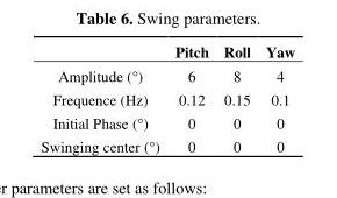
<table><thead><tr><td></td><td>Pitch</td><td>Roll</td><td>Yaw</td></tr></thead><tbody><tr><td>Amplitude (°)</td><td>6</td><td>8</td><td>4</td></tr><tr><td>Frequence (Hz)</td><td>0.12</td><td>0.15</td><td>0.1</td></tr><tr><td>Initial Phase (°)</td><td>0</td><td>0</td><td>0</td></tr><tr><td>Swinging center (°)</td><td>0</td><td>0</td><td>0</td></tr></tbody></table>